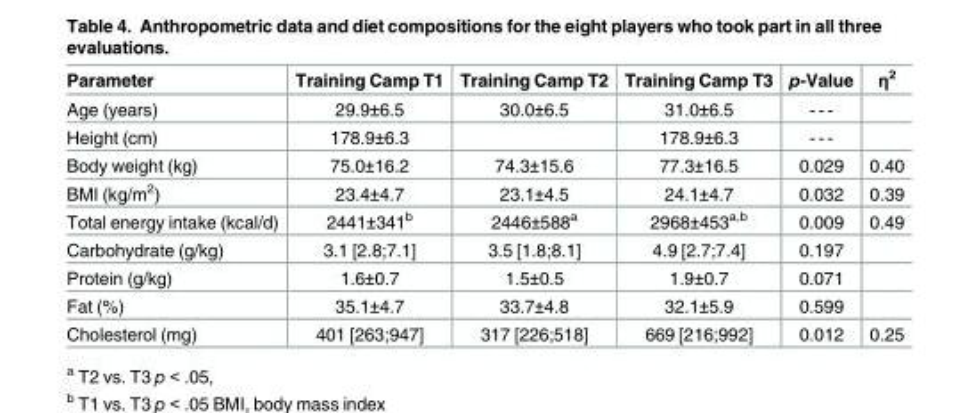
<table><thead><tr><td>Parameter</td><td>Training Camp T1</td><td>Training Camp T2</td><td>Training Camp T3</td><td>p-Value</td><td>η<sup>2</sup></td></tr></thead><tbody><tr><td>Age (years)</td><td>29.9±6.5</td><td>30.0±6.5</td><td>31.0±6.5</td><td>- - -</td><td></td></tr><tr><td>Height (cm)</td><td>178.9±6.3</td><td></td><td>178.9±6.3</td><td>- - -</td><td></td></tr><tr><td>Body weight (kg)</td><td>75.0±16.2</td><td>74.3±15.6</td><td>77.3±16.5</td><td>0.029</td><td>0.40</td></tr><tr><td>BMI (kg/m<sup>2</sup>)</td><td>23.4±4.7</td><td>23.1±4.5</td><td>24.1±4.7</td><td>0.032</td><td>0.39</td></tr><tr><td>Total energy intake (kcal/d)</td><td>2441±341<sup>b</sup></td><td>2446±588<sup>a</sup></td><td>2968±453<sup>a,b</sup></td><td>0.009</td><td>0.49</td></tr><tr><td>Carbohydrate (g/kg)</td><td>3.1 [2.8;7.1]</td><td>3.5 [1.8;8.1]</td><td>4.9 [2.7;7.4]</td><td>0.197</td><td></td></tr><tr><td>Protein (g/kg)</td><td>1.6±0.7</td><td>1.5±0.5</td><td>1.9±0.7</td><td>0.071</td><td></td></tr><tr><td>Fat (%)</td><td>35.1±4.7</td><td>33.7±4.8</td><td>32.1±5.9</td><td>0.599</td><td></td></tr><tr><td>Cholesterol (mg)</td><td>401 [263;947]</td><td>317 [226;518]</td><td>669 [216;992]</td><td>0.012</td><td>0.25</td></tr></tbody></table>